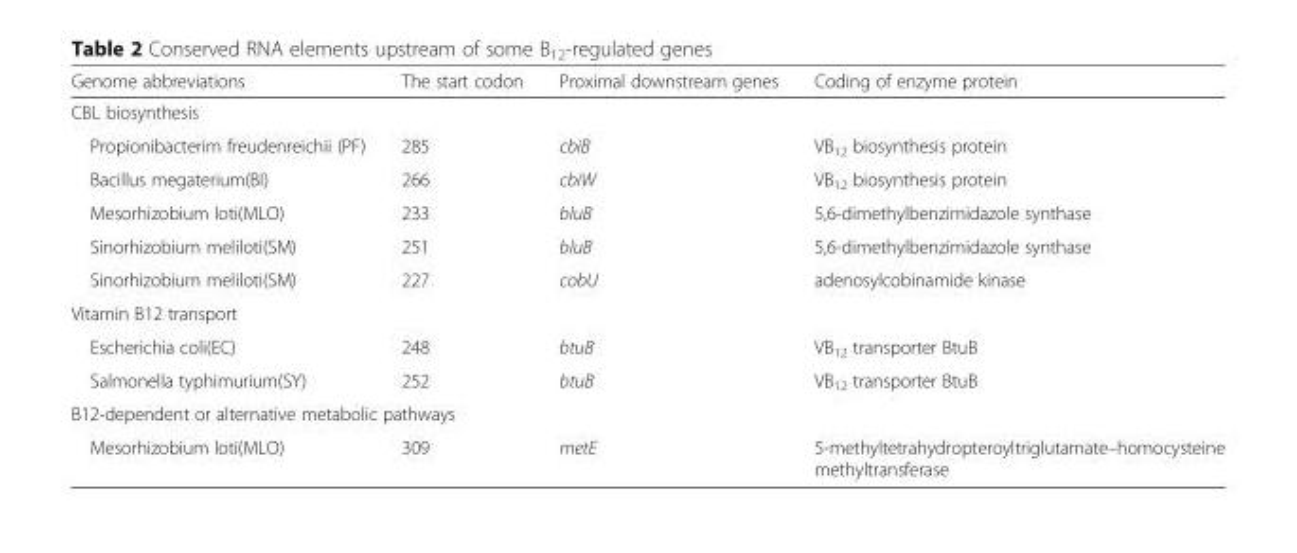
<table><thead><tr><td>Genome abbreviations</td><td>The start codon</td><td>Proximal downstream genes</td><td>Coding of enzyme protein</td></tr></thead><tbody><tr><td colspan="4">CBL biosynthesis</td></tr><tr><td>Propionibacterim freudenreichii (PF)</td><td>285</td><td>cbiB</td><td>VB<sub>12</sub> biosynthesis protein</td></tr><tr><td>Bacillus megaterium(BI)</td><td>266</td><td>cbiW</td><td>VB<sub>12</sub> biosynthesis protein</td></tr><tr><td>Mesorhizobium loti(MLO)</td><td>233</td><td>bluB</td><td>5,6-dimethylbenzimidazole synthase</td></tr><tr><td>Sinorhizobium meliloti(SM)</td><td>251</td><td>bluB</td><td>5,6-dimethylbenzimidazole synthase</td></tr><tr><td>Sinorhizobium meliloti(SM)</td><td>227</td><td>cobU</td><td>adenosylcobinamide kinase</td></tr><tr><td colspan="4">Vitamin B12 transport</td></tr><tr><td>Escherichia coli(EC)</td><td>248</td><td>btuB</td><td>VB<sub>12</sub> transporter BtuB</td></tr><tr><td>Salmonella typhimurium(SY)</td><td>252</td><td>btuB</td><td>VB<sub>12</sub> transporter BtuB</td></tr><tr><td colspan="4">B12-dependent or alternative metabolic pathways</td></tr><tr><td>Mesorhizobium loti(MLO)</td><td>309</td><td>metE</td><td>5-methyltetrahydropteroyltriglutamate–homocysteine methyltransferase</td></tr></tbody></table>